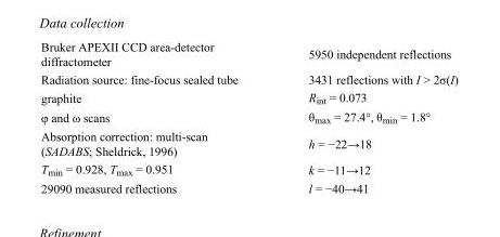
<table><tbody><tr><td>Bruker APEXII CCD area-detector diffractometer</td><td>5950 independent reflections</td></tr><tr><td>Radiation source: fine-focus sealed tube</td><td>3431 reflections with I &gt; 2σ(I)</td></tr><tr><td>graphite</td><td>R<sub>int</sub> = 0.073</td></tr><tr><td>φ and ω scans</td><td>θ<sub>max</sub> = 27.4°, θ<sub>min</sub> = 1.8°</td></tr><tr><td>Absorption correction: multi-scan (SADABS; Sheldrick, 1996)</td><td>h = −22→18</td></tr><tr><td>T<sub>min</sub> = 0.928, T<sub>max</sub> = 0.951</td><td>k = −11→12</td></tr><tr><td>29090 measured reflections</td><td>l = −40→41</td></tr></tbody></table>